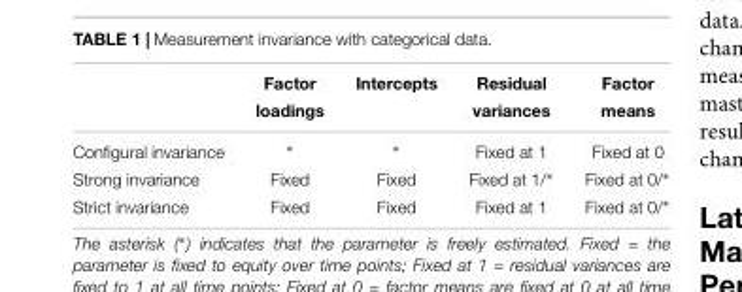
<table><thead><tr><td rowspan="2"></td><td rowspan="2">Factor loadings</td><td rowspan="2">Intercepts</td><td rowspan="2">Residual variances</td><td rowspan="2">Factor means</td></tr><tr></tr></thead><tbody><tr><td>Configural invariance</td><td>∗</td><td>∗</td><td>Fixed at 1</td><td>Fixed at 0</td></tr><tr><td>Strong invariance</td><td>Fixed</td><td>Fixed</td><td>Fixed at 1/∗</td><td>Fixed at 0/∗</td></tr><tr><td>Strict invariance</td><td>Fixed</td><td>Fixed</td><td>Fixed at 1</td><td>Fixed at 0/∗</td></tr></tbody></table>